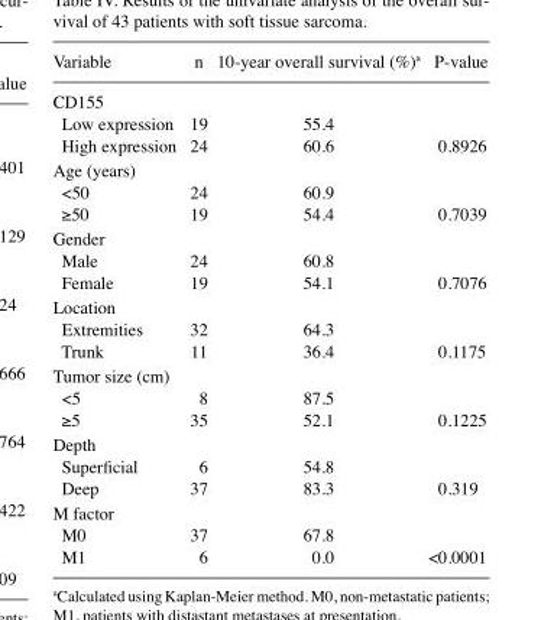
<table><thead><tr><td>Variable</td><td>n</td><td>10-year overall survival (%)<sup>a</sup></td><td>P-value</td></tr></thead><tbody><tr><td colspan="4">CD155</td></tr><tr><td>Low expression</td><td>19</td><td>55.4</td><td></td></tr><tr><td>High expression</td><td>24</td><td>60.6</td><td>0.8926</td></tr><tr><td colspan="4">Age (years)</td></tr><tr><td>&lt;50</td><td>24</td><td>60.9</td><td></td></tr><tr><td>≥50</td><td>19</td><td>54.4</td><td>0.7039</td></tr><tr><td colspan="4">Gender</td></tr><tr><td>Male</td><td>24</td><td>60.8</td><td></td></tr><tr><td>Female</td><td>19</td><td>54.1</td><td>0.7076</td></tr><tr><td colspan="4">Location</td></tr><tr><td>Extremities</td><td>32</td><td>64.3</td><td></td></tr><tr><td>Trunk</td><td>11</td><td>36.4</td><td>0.1175</td></tr><tr><td colspan="4">Tumor size (cm)</td></tr><tr><td>&lt;5</td><td>8</td><td>87.5</td><td></td></tr><tr><td>≥5</td><td>35</td><td>52.1</td><td>0.1225</td></tr><tr><td colspan="4">Depth</td></tr><tr><td>Superficial</td><td>6</td><td>54.8</td><td></td></tr><tr><td>Deep</td><td>37</td><td>83.3</td><td>0.319</td></tr><tr><td colspan="4">M factor</td></tr><tr><td>M0</td><td>37</td><td>67.8</td><td></td></tr><tr><td>M1</td><td>6</td><td>0.0</td><td>&lt;0.0001</td></tr></tbody></table>